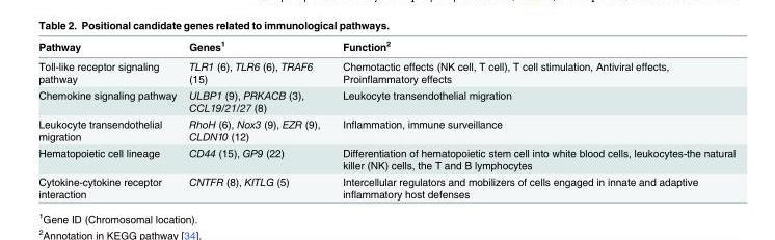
<table><thead><tr><td>Pathway</td><td>Genes<sup>1</sup></td><td>Function<sup>2</sup></td></tr></thead><tbody><tr><td>Toll-like receptor signaling pathway</td><td>TLR1 (6), TLR6 (6), TRAF6 (15)</td><td>Chemotactic effects (NK cell, T cell), T cell stimulation, Antiviral effects, Proinflammatory effects</td></tr><tr><td>Chemokine signaling pathway</td><td>ULBP1 (9), PRKACB (3), CCL19/21/27 (8)</td><td>Leukocyte transendothelial migration</td></tr><tr><td>Leukocyte transendothelial migration</td><td>RhoH (6), Nox3 (9), EZR (9), CLDN10 (12)</td><td>Inflammation, immune surveillance</td></tr><tr><td>Hematopoietic cell lineage</td><td>CD44 (15), GP9 (22)</td><td>Differentiation of hematopoietic stem cell into white blood cells, leukocytes-the natural killer (NK) cells, the T and B lymphocytes</td></tr><tr><td>Cytokine-cytokine receptor interaction</td><td>CNTFR (8), KITLG (5)</td><td>Intercellular regulators and mobilizers of cells engaged in innate and adaptive inflammatory host defenses</td></tr></tbody></table>